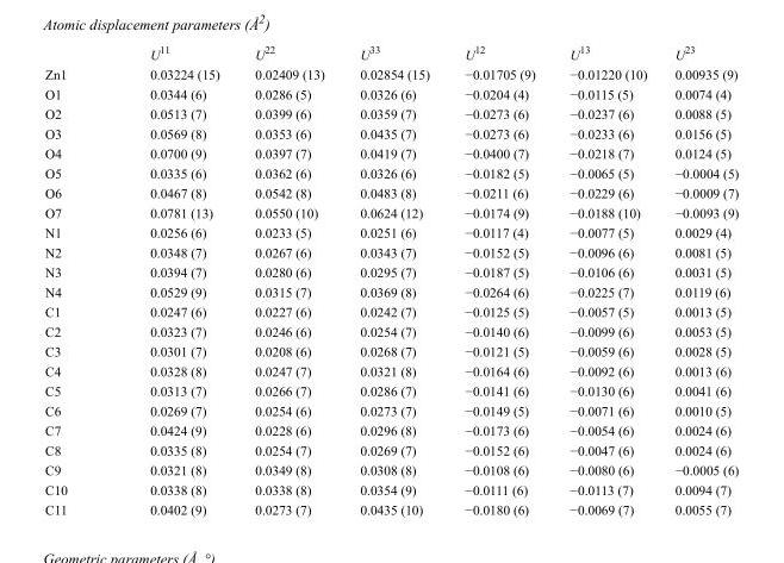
<table><thead><tr><td></td><td>U<sup>11</sup></td><td>U<sup>22</sup></td><td>U<sup>33</sup></td><td>U<sup>12</sup></td><td>U<sup>13</sup></td><td>U<sup>23</sup></td></tr></thead><tbody><tr><td>Zn1</td><td>0.03224 (15)</td><td>0.02409 (13)</td><td>0.02854 (15)</td><td>−0.01705 (9)</td><td>−0.01220 (10)</td><td>0.00935 (9)</td></tr><tr><td>O1</td><td>0.0344 (6)</td><td>0.0286 (5)</td><td>0.0326 (6)</td><td>−0.0204 (4)</td><td>−0.0115 (5)</td><td>0.0074 (4)</td></tr><tr><td>O2</td><td>0.0513 (7)</td><td>0.0399 (6)</td><td>0.0359 (7)</td><td>−0.0273 (6)</td><td>−0.0237 (6)</td><td>0.0088 (5)</td></tr><tr><td>O3</td><td>0.0569 (8)</td><td>0.0353 (6)</td><td>0.0435 (7)</td><td>−0.0273 (6)</td><td>−0.0233 (6)</td><td>0.0156 (5)</td></tr><tr><td>O4</td><td>0.0700 (9)</td><td>0.0397 (7)</td><td>0.0419 (7)</td><td>−0.0400 (7)</td><td>−0.0218 (7)</td><td>0.0124 (5)</td></tr><tr><td>O5</td><td>0.0335 (6)</td><td>0.0362 (6)</td><td>0.0326 (6)</td><td>−0.0182 (5)</td><td>−0.0065 (5)</td><td>−0.0004 (5)</td></tr><tr><td>O6</td><td>0.0467 (8)</td><td>0.0542 (8)</td><td>0.0483 (8)</td><td>−0.0211 (6)</td><td>−0.0229 (6)</td><td>−0.0009 (7)</td></tr><tr><td>O7</td><td>0.0781 (13)</td><td>0.0550 (10)</td><td>0.0624 (12)</td><td>−0.0174 (9)</td><td>−0.0188 (10)</td><td>−0.0093 (9)</td></tr><tr><td>N1</td><td>0.0256 (6)</td><td>0.0233 (5)</td><td>0.0251 (6)</td><td>−0.0117 (4)</td><td>−0.0077 (5)</td><td>0.0029 (4)</td></tr><tr><td>N2</td><td>0.0348 (7)</td><td>0.0267 (6)</td><td>0.0343 (7)</td><td>−0.0152 (5)</td><td>−0.0096 (6)</td><td>0.0081 (5)</td></tr><tr><td>N3</td><td>0.0394 (7)</td><td>0.0280 (6)</td><td>0.0295 (7)</td><td>−0.0187 (5)</td><td>−0.0106 (6)</td><td>0.0031 (5)</td></tr><tr><td>N4</td><td>0.0529 (9)</td><td>0.0315 (7)</td><td>0.0369 (8)</td><td>−0.0264 (6)</td><td>−0.0225 (7)</td><td>0.0119 (6)</td></tr><tr><td>C1</td><td>0.0247 (6)</td><td>0.0227 (6)</td><td>0.0242 (7)</td><td>−0.0125 (5)</td><td>−0.0057 (5)</td><td>0.0013 (5)</td></tr><tr><td>C2</td><td>0.0323 (7)</td><td>0.0246 (6)</td><td>0.0254 (7)</td><td>−0.0140 (6)</td><td>−0.0099 (6)</td><td>0.0053 (5)</td></tr><tr><td>C3</td><td>0.0301 (7)</td><td>0.0208 (6)</td><td>0.0268 (7)</td><td>−0.0121 (5)</td><td>−0.0059 (6)</td><td>0.0028 (5)</td></tr><tr><td>C4</td><td>0.0328 (8)</td><td>0.0247 (7)</td><td>0.0321 (8)</td><td>−0.0164 (6)</td><td>−0.0092 (6)</td><td>0.0013 (6)</td></tr><tr><td>C5</td><td>0.0313 (7)</td><td>0.0266 (7)</td><td>0.0286 (7)</td><td>−0.0141 (6)</td><td>−0.0130 (6)</td><td>0.0041 (6)</td></tr><tr><td>C6</td><td>0.0269 (7)</td><td>0.0254 (6)</td><td>0.0273 (7)</td><td>−0.0149 (5)</td><td>−0.0071 (6)</td><td>0.0010 (5)</td></tr><tr><td>C7</td><td>0.0424 (9)</td><td>0.0228 (6)</td><td>0.0296 (8)</td><td>−0.0173 (6)</td><td>−0.0054 (6)</td><td>0.0024 (6)</td></tr><tr><td>C8</td><td>0.0335 (8)</td><td>0.0254 (7)</td><td>0.0269 (7)</td><td>−0.0152 (6)</td><td>−0.0047 (6)</td><td>0.0024 (6)</td></tr><tr><td>C9</td><td>0.0321 (8)</td><td>0.0349 (8)</td><td>0.0308 (8)</td><td>−0.0108 (6)</td><td>−0.0080 (6)</td><td>−0.0005 (6)</td></tr><tr><td>C10</td><td>0.0338 (8)</td><td>0.0338 (8)</td><td>0.0354 (9)</td><td>−0.0111 (6)</td><td>−0.0113 (7)</td><td>0.0094 (7)</td></tr><tr><td>C11</td><td>0.0402 (9)</td><td>0.0273 (7)</td><td>0.0435 (10)</td><td>−0.0180 (6)</td><td>−0.0069 (7)</td><td>0.0055 (7)</td></tr></tbody></table>